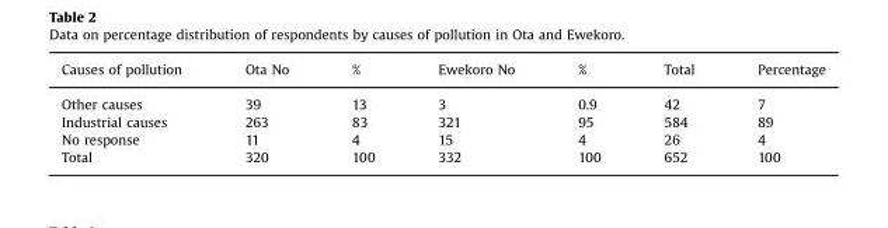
<table><thead><tr><td>Causes of pollution</td><td>Ota No</td><td>%</td><td>Ewekoro No</td><td>%</td><td>Total</td><td>Percentage</td></tr></thead><tbody><tr><td>Other causes</td><td>39</td><td>13</td><td>3</td><td>0.9</td><td>42</td><td>7</td></tr><tr><td>Industrial causes</td><td>263</td><td>83</td><td>321</td><td>95</td><td>584</td><td>89</td></tr><tr><td>No response</td><td>11</td><td>4</td><td>15</td><td>4</td><td>26</td><td>4</td></tr><tr><td>Total</td><td>320</td><td>100</td><td>332</td><td>100</td><td>652</td><td>100</td></tr></tbody></table>